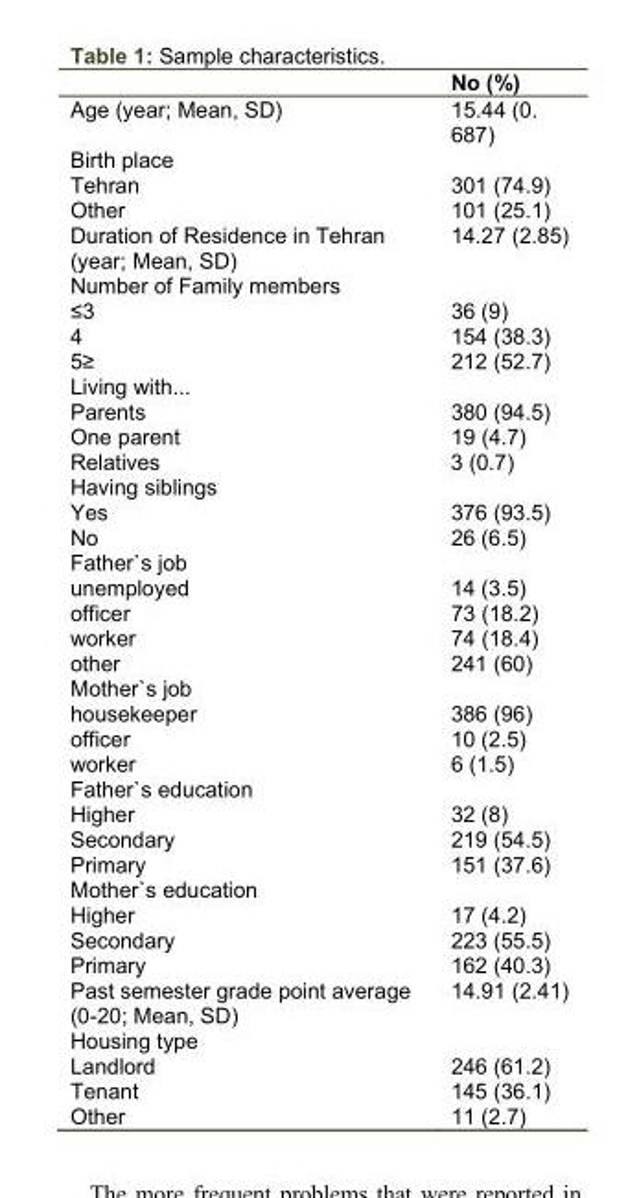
<table><thead><tr><td></td><td>No (%)</td></tr></thead><tbody><tr><td>Age (year; Mean, SD)</td><td>15.44 (0. 687)</td></tr><tr><td colspan="2">Birth place</td></tr><tr><td>Tehran</td><td>301 (74.9)</td></tr><tr><td>Other</td><td>101 (25.1)</td></tr><tr><td>Duration of Residence in Tehran (year; Mean, SD)</td><td>14.27 (2.85)</td></tr><tr><td colspan="2">Number of Family members</td></tr><tr><td>≤3</td><td>36 (9)</td></tr><tr><td>4</td><td>154 (38.3)</td></tr><tr><td>5≥</td><td>212 (52.7)</td></tr><tr><td colspan="2">Living with...</td></tr><tr><td>Parents</td><td>380 (94.5)</td></tr><tr><td>One parent</td><td>19 (4.7)</td></tr><tr><td>Relatives</td><td>3 (0.7)</td></tr><tr><td colspan="2">Having siblings</td></tr><tr><td>Yes</td><td>376 (93.5)</td></tr><tr><td>No</td><td>26 (6.5)</td></tr><tr><td colspan="2">Father`s job</td></tr><tr><td>unemployed</td><td>14 (3.5)</td></tr><tr><td>officer</td><td>73 (18.2)</td></tr><tr><td>worker</td><td>74 (18.4)</td></tr><tr><td>other</td><td>241 (60)</td></tr><tr><td colspan="2">Mother`s job</td></tr><tr><td>housekeeper</td><td>386 (96)</td></tr><tr><td>officer</td><td>10 (2.5)</td></tr><tr><td>worker</td><td>6 (1.5)</td></tr><tr><td colspan="2">Father`s education</td></tr><tr><td>Higher</td><td>32 (8)</td></tr><tr><td>Secondary</td><td>219 (54.5)</td></tr><tr><td>Primary</td><td>151 (37.6)</td></tr><tr><td colspan="2">Mother`s education</td></tr><tr><td>Higher</td><td>17 (4.2)</td></tr><tr><td>Secondary</td><td>223 (55.5)</td></tr><tr><td>Primary</td><td>162 (40.3)</td></tr><tr><td>Past semester grade point average (0-20; Mean, SD)</td><td>14.91 (2.41)</td></tr><tr><td colspan="2">Housing type</td></tr><tr><td>Landlord</td><td>246 (61.2)</td></tr><tr><td>Tenant</td><td>145 (36.1)</td></tr><tr><td>Other</td><td>11 (2.7)</td></tr></tbody></table>